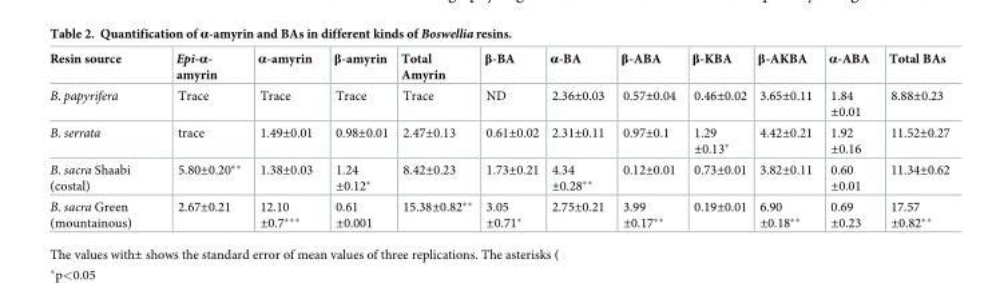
<table><thead><tr><td>Resin source</td><td>Epi-α- amyrin</td><td>α-amyrin</td><td>β-amyrin</td><td>Total Amyrin</td><td>β-BA</td><td>α-BA</td><td>β-ABA</td><td>β-KBA</td><td>β-AKBA</td><td>α-ABA</td><td>Total BAs</td></tr></thead><tbody><tr><td>B. papyrifera</td><td>Trace</td><td>Trace</td><td>Trace</td><td>Trace</td><td>ND</td><td>2.36±0.03</td><td>0.57±0.04</td><td>0.46±0.02</td><td>3.65±0.11</td><td>1.84 ±0.01</td><td>8.88±0.23</td></tr><tr><td>B. serrata</td><td>trace</td><td>1.49±0.01</td><td>0.98±0.01</td><td>2.47±0.13</td><td>0.61±0.02</td><td>2.31±0.11</td><td>0.97±0.1</td><td>1.29 ±0.13*</td><td>4.42±0.21</td><td>1.92 ±0.16</td><td>11.52±0.27</td></tr><tr><td>B. sacra Shaabi (costal)</td><td>5.80±0.20**</td><td>1.38±0.03</td><td>1.24 ±0.12*</td><td>8.42±0.23</td><td>1.73±0.21</td><td>4.34 ±0.28**</td><td>0.12±0.01</td><td>0.73±0.01</td><td>3.82±0.11</td><td>0.60 ±0.01</td><td>11.34±0.62</td></tr><tr><td>B. sacra Green (mountainous)</td><td>2.67±0.21</td><td>12.10 ±0.7***</td><td>0.61 ±0.001</td><td>15.38±0.82**</td><td>3.05 ±0.71*</td><td>2.75±0.21</td><td>3.99 ±0.17**</td><td>0.19±0.01</td><td>6.90 ±0.18**</td><td>0.69 ±0.23</td><td>17.57 ±0.82**</td></tr></tbody></table>